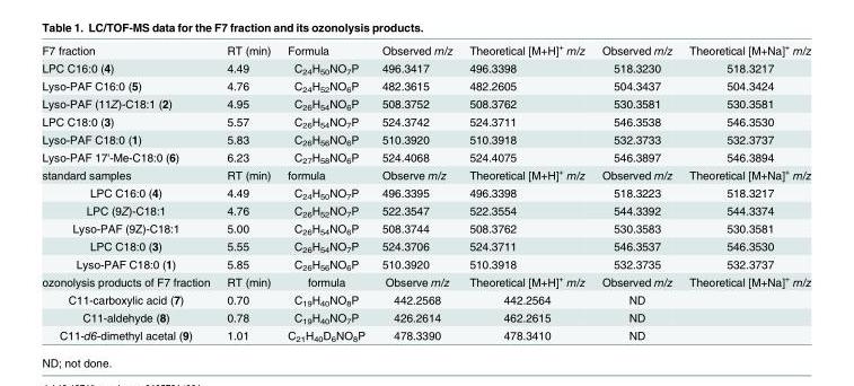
<table><tbody><tr><td>F7 fraction</td><td>RT (min)</td><td>Formula</td><td>Observed m/z</td><td>Theoretical [M+H]<sup>+</sup> m/z</td><td>Observed m/z</td><td>Theoretical [M+Na]<sup>+</sup> m/z</td></tr><tr><td>LPC C16:0 (4)</td><td>4.49</td><td>C<sub>24</sub>H<sub>50</sub>NO<sub>7</sub>P</td><td>496.3417</td><td>496.3398</td><td>518.3230</td><td>518.3217</td></tr><tr><td>Lyso-PAF C16:0 (5)</td><td>4.76</td><td>C<sub>24</sub>H<sub>52</sub>NO<sub>6</sub>P</td><td>482.3615</td><td>482.2605</td><td>504.3437</td><td>504.3424</td></tr><tr><td>Lyso-PAF (11Z)-C18:1 (2)</td><td>4.95</td><td>C<sub>26</sub>H<sub>54</sub>NO<sub>6</sub>P</td><td>508.3752</td><td>508.3762</td><td>530.3581</td><td>530.3581</td></tr><tr><td>LPC C18:0 (3)</td><td>5.57</td><td>C<sub>26</sub>H<sub>54</sub>NO<sub>7</sub>P</td><td>524.3742</td><td>524.3711</td><td>546.3538</td><td>546.3530</td></tr><tr><td>Lyso-PAF C18:0 (1)</td><td>5.83</td><td>C<sub>26</sub>H<sub>56</sub>NO<sub>6</sub>P</td><td>510.3920</td><td>510.3918</td><td>532.3733</td><td>532.3737</td></tr><tr><td>Lyso-PAF 17&#x27;-Me-C18:0 (6)</td><td>6.23</td><td>C<sub>27</sub>H<sub>58</sub>NO<sub>6</sub>P</td><td>524.4068</td><td>524.4075</td><td>546.3897</td><td>546.3894</td></tr><tr><td>standard samples</td><td>RT (min)</td><td>formula</td><td>Observe m/z</td><td>Theoretical [M+H]<sup>+</sup> m/z</td><td>Observed m/z</td><td>Theoretical [M+Na]<sup>+</sup> m/z</td></tr><tr><td>LPC C16:0 (4)</td><td>4.49</td><td>C<sub>24</sub>H<sub>50</sub>NO<sub>7</sub>P</td><td>496.3395</td><td>496.3398</td><td>518.3223</td><td>518.3217</td></tr><tr><td>LPC (9Z)-C18:1</td><td>4.76</td><td>C<sub>26</sub>H<sub>52</sub>NO<sub>7</sub>P</td><td>522.3547</td><td>522.3554</td><td>544.3392</td><td>544.3374</td></tr><tr><td>Lyso-PAF (9Z)-C18:1</td><td>5.00</td><td>C<sub>26</sub>H<sub>54</sub>NO<sub>6</sub>P</td><td>508.3744</td><td>508.3762</td><td>530.3583</td><td>530.3581</td></tr><tr><td>LPC C18:0 (3)</td><td>5.55</td><td>C<sub>26</sub>H<sub>54</sub>NO<sub>7</sub>P</td><td>524.3706</td><td>524.3711</td><td>546.3537</td><td>546.3530</td></tr><tr><td>Lyso-PAF C18:0 (1)</td><td>5.85</td><td>C<sub>26</sub>H<sub>56</sub>NO<sub>6</sub>P</td><td>510.3920</td><td>510.3918</td><td>532.3735</td><td>532.3737</td></tr><tr><td>ozonolysis products of F7 fraction</td><td>RT (min)</td><td>formula</td><td>Observe m/z</td><td>Theoretical [M+H]<sup>+</sup> m/z</td><td>Observed m/z</td><td>Theoretical [M+Na]<sup>+</sup> m/z</td></tr><tr><td>C11-carboxylic acid (7)</td><td>0.70</td><td>C<sub>19</sub>H<sub>40</sub>NO<sub>8</sub>P</td><td>442.2568</td><td>442.2564</td><td>ND</td><td></td></tr><tr><td>C11-aldehyde (8)</td><td>0.78</td><td>C<sub>19</sub>H<sub>40</sub>NO<sub>7</sub>P</td><td>426.2614</td><td>462.2615</td><td>ND</td><td></td></tr><tr><td>C11-d6-dimethyl acetal (9)</td><td>1.01</td><td>C<sub>21</sub>H<sub>40</sub>D<sub>6</sub>NO<sub>8</sub>P</td><td>478.3390</td><td>478.3410</td><td>ND</td><td></td></tr></tbody></table>